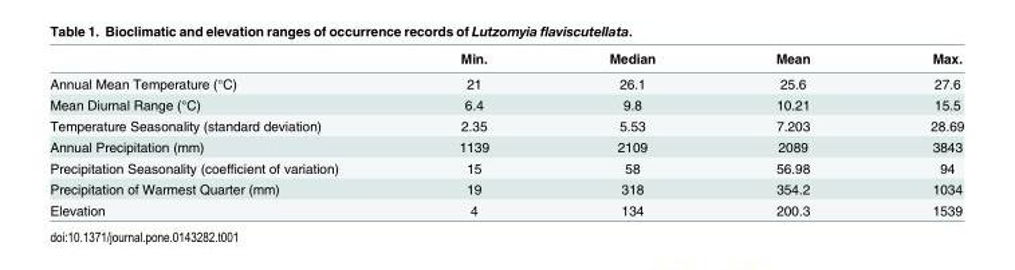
<table><thead><tr><td></td><td>Min.</td><td>Median</td><td>Mean</td><td>Max.</td></tr></thead><tbody><tr><td>Annual Mean Temperature (°C)</td><td>21</td><td>26.1</td><td>25.6</td><td>27.6</td></tr><tr><td>Mean Diurnal Range (°C)</td><td>6.4</td><td>9.8</td><td>10.21</td><td>15.5</td></tr><tr><td>Temperature Seasonality (standard deviation)</td><td>2.35</td><td>5.53</td><td>7.203</td><td>28.69</td></tr><tr><td>Annual Precipitation (mm)</td><td>1139</td><td>2109</td><td>2089</td><td>3843</td></tr><tr><td>Precipitation Seasonality (coefficient of variation)</td><td>15</td><td>58</td><td>56.98</td><td>94</td></tr><tr><td>Precipitation of Warmest Quarter (mm)</td><td>19</td><td>318</td><td>354.2</td><td>1034</td></tr><tr><td>Elevation</td><td>4</td><td>134</td><td>200.3</td><td>1539</td></tr></tbody></table>